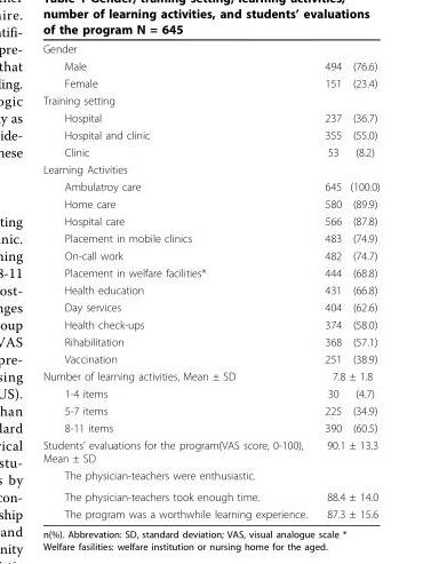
<table><tbody><tr><td colspan="3">Gender</td></tr><tr><td>Male</td><td>494</td><td>(76.6)</td></tr><tr><td>Female</td><td>151</td><td>(23.4)</td></tr><tr><td colspan="3">Training setting</td></tr><tr><td>Hospital</td><td>237</td><td>(36.7)</td></tr><tr><td>Hospital and clinic</td><td>355</td><td>(55.0)</td></tr><tr><td>Clinic</td><td>53</td><td>(8.2)</td></tr><tr><td colspan="3">Learning Activities</td></tr><tr><td>Ambulatroy care</td><td>645</td><td>(100.0)</td></tr><tr><td>Home care</td><td>580</td><td>(89.9)</td></tr><tr><td>Hospital care</td><td>566</td><td>(87.8)</td></tr><tr><td>Placement in mobile clinics</td><td>483</td><td>(74.9)</td></tr><tr><td>On-call work</td><td>482</td><td>(74.7)</td></tr><tr><td>Placement in welfare facilities*</td><td>444</td><td>(68.8)</td></tr><tr><td>Health education</td><td>431</td><td>(66.8)</td></tr><tr><td>Day services</td><td>404</td><td>(62.6)</td></tr><tr><td>Health check-ups</td><td>374</td><td>(58.0)</td></tr><tr><td>Rihabilitation</td><td>368</td><td>(57.1)</td></tr><tr><td>Vaccination</td><td>251</td><td>(38.9)</td></tr><tr><td>Number of learning activities, Mean ± SD</td><td colspan="2">7.8 ± 1.8</td></tr><tr><td>1-4 items</td><td>30</td><td>(4.7)</td></tr><tr><td>5-7 items</td><td>225</td><td>(34.9)</td></tr><tr><td>8-11 items</td><td>390</td><td>(60.5)</td></tr><tr><td>Students’ evaluations for the program(VAS score, 0-100), Mean ± SD</td><td colspan="2">90.1 ± 13.3</td></tr><tr><td colspan="3">The physician-teachers were enthusiastic.</td></tr><tr><td>The physician-teachers took enough time.</td><td colspan="2">88.4 ± 14.0</td></tr><tr><td>The program was a worthwhile learning experience.</td><td colspan="2">87.3 ± 15.6</td></tr></tbody></table>